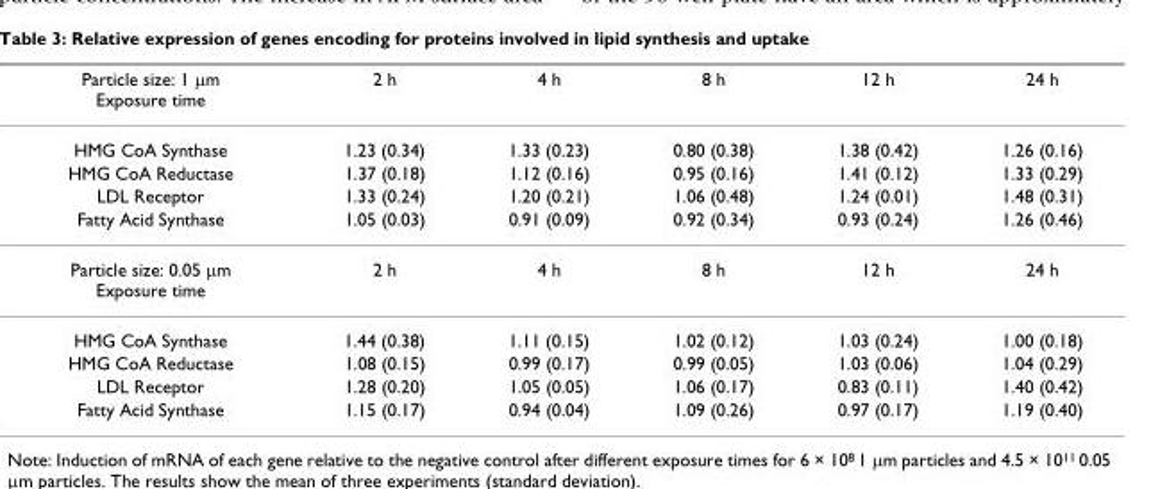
<table><thead><tr><td>Particle size: 1 μm Exposure time</td><td>2 h</td><td>4 h</td><td>8 h</td><td>12 h</td><td>24 h</td></tr></thead><tbody><tr><td>HMG CoA Synthase</td><td>1.23 (0.34)</td><td>1.33 (0.23)</td><td>0.80 (0.38)</td><td>1.38 (0.42)</td><td>1.26 (0.16)</td></tr><tr><td>HMG CoA Reductase</td><td>1.37 (0.18)</td><td>1.12 (0.16)</td><td>0.95 (0.16)</td><td>1.41 (0.12)</td><td>1.33 (0.29)</td></tr><tr><td>LDL Receptor</td><td>1.33 (0.24)</td><td>1.20 (0.21)</td><td>1.06 (0.48)</td><td>1.24 (0.01)</td><td>1.48 (0.31)</td></tr><tr><td>Fatty Acid Synthase</td><td>1.05 (0.03)</td><td>0.91 (0.09)</td><td>0.92 (0.34)</td><td>0.93 (0.24)</td><td>1.26 (0.46)</td></tr><tr><td>Particle size: 0.05 μm Exposure time</td><td>2 h</td><td>4 h</td><td>8 h</td><td>12 h</td><td>24 h</td></tr><tr><td>HMG CoA Synthase</td><td>1.44 (0.38)</td><td>1.11 (0.15)</td><td>1.02 (0.12)</td><td>1.03 (0.24)</td><td>1.00 (0.18)</td></tr><tr><td>HMG CoA Reductase</td><td>1.08 (0.15)</td><td>0.99 (0.17)</td><td>0.99 (0.05)</td><td>1.03 (0.06)</td><td>1.04 (0.29)</td></tr><tr><td>LDL Receptor</td><td>1.28 (0.20)</td><td>1.05 (0.05)</td><td>1.06 (0.17)</td><td>0.83 (0.11)</td><td>1.40 (0.42)</td></tr><tr><td>Fatty Acid Synthase</td><td>1.15 (0.17)</td><td>0.94 (0.04)</td><td>1.09 (0.26)</td><td>0.97 (0.17)</td><td>1.19 (0.40)</td></tr></tbody></table>